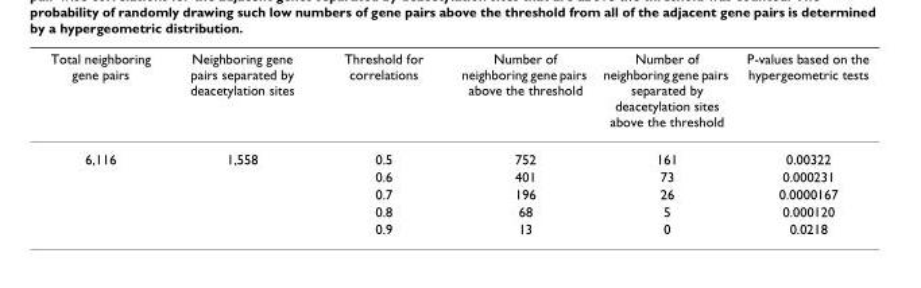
<table><thead><tr><td>Total neighboring gene pairs</td><td>Neighboring gene pairs separated by deacetylation sites</td><td>Threshold for correlations</td><td>Number of neighboring gene pairs above the threshold</td><td>Number of neighboring gene pairs separated by deacetylation sites above the threshold</td><td>P-values based on the hypergeometric tests</td></tr></thead><tbody><tr><td rowspan="5">6,116</td><td>1,558</td><td>0.5</td><td>752</td><td>161</td><td>0.00322</td></tr><tr><td></td><td>0.6</td><td>401</td><td>73</td><td>0.000231</td></tr><tr><td></td><td>0.7</td><td>196</td><td>26</td><td>0.0000167</td></tr><tr><td></td><td>0.8</td><td>68</td><td>5</td><td>0.000120</td></tr><tr><td></td><td>0.9</td><td>13</td><td>0</td><td>0.0218</td></tr></tbody></table>